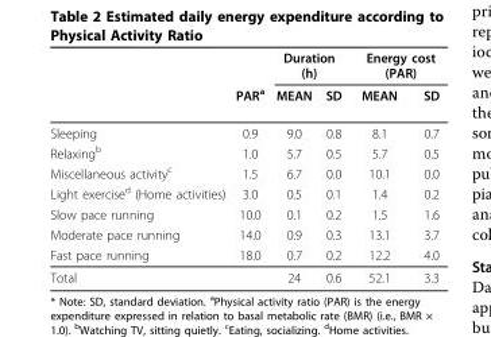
<table><thead><tr><td rowspan="2"></td><td rowspan="2">PAR<sup>a</sup></td><td colspan="2">Duration (h)</td><td colspan="2">Energy cost (PAR)</td></tr><tr><td>MEAN</td><td>SD</td><td>MEAN</td><td>SD</td></tr></thead><tbody><tr><td>Sleeping</td><td>0.9</td><td>9.0</td><td>0.8</td><td>8.1</td><td>0.7</td></tr><tr><td>Relaxing<sup>b</sup></td><td>1.0</td><td>5.7</td><td>0.5</td><td>5.7</td><td>0.5</td></tr><tr><td>Miscellaneous activity<sup>c</sup></td><td>1.5</td><td>6.7</td><td>0.0</td><td>10.1</td><td>0.0</td></tr><tr><td>Light exercise<sup>d</sup> (Home activities)</td><td>3.0</td><td>0.5</td><td>0.1</td><td>1.4</td><td>0.2</td></tr><tr><td>Slow pace running</td><td>10.0</td><td>0.1</td><td>0.2</td><td>1.5</td><td>1.6</td></tr><tr><td>Moderate pace running</td><td>14.0</td><td>0.9</td><td>0.3</td><td>13.1</td><td>3.7</td></tr><tr><td>Fast pace running</td><td>18.0</td><td>0.7</td><td>0.2</td><td>12.2</td><td>4.0</td></tr><tr><td>Total</td><td></td><td>24</td><td>0.6</td><td>52.1</td><td>3.3</td></tr></tbody></table>